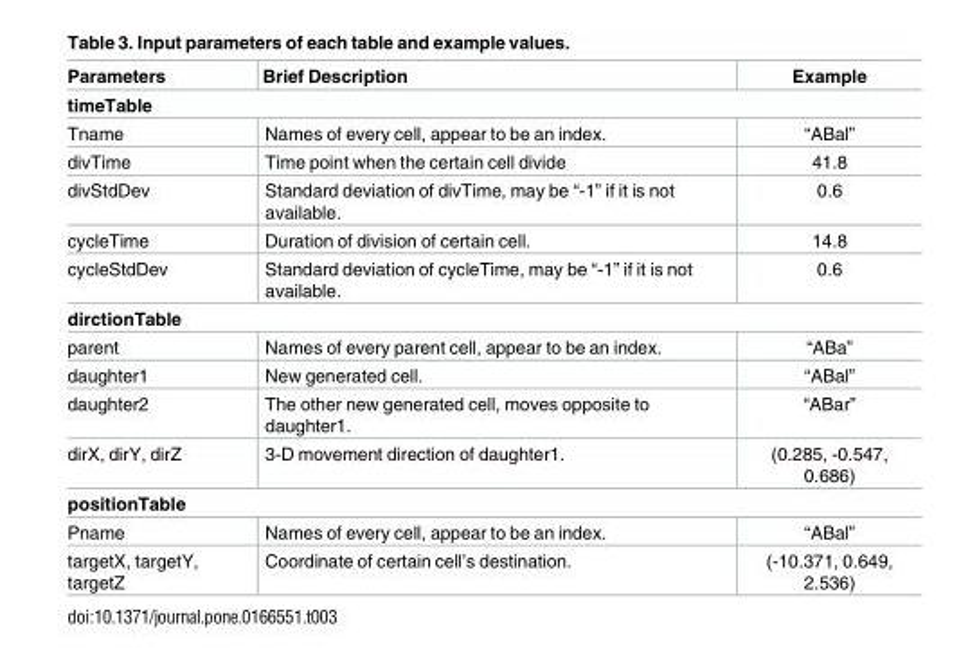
<table><thead><tr><td>Parameters</td><td>Brief Description</td><td>Example</td></tr></thead><tbody><tr><td colspan="3">timeTable</td></tr><tr><td>Tname</td><td>Names of every cell, appear to be an index.</td><td>“ABal”</td></tr><tr><td>divTime</td><td>Time point when the certain cell divide</td><td>41.8</td></tr><tr><td>divStdDev</td><td>Standard deviation of divTime, may be “-1” if it is not available.</td><td>0.6</td></tr><tr><td>cycleTime</td><td>Duration of division of certain cell.</td><td>14.8</td></tr><tr><td>cycleStdDev</td><td>Standard deviation of cycleTime, may be “-1” if it is not available.</td><td>0.6</td></tr><tr><td colspan="3">dirctionTable</td></tr><tr><td>parent</td><td>Names of every parent cell, appear to be an index.</td><td>“ABa”</td></tr><tr><td>daughter1</td><td>New generated cell.</td><td>“ABal”</td></tr><tr><td>daughter2</td><td>The other new generated cell, moves opposite to daughter1.</td><td>“ABar”</td></tr><tr><td>dirX, dirY, dirZ</td><td>3-D movement direction of daughter1.</td><td>(0.285, -0.547, 0.686)</td></tr><tr><td colspan="3">positionTable</td></tr><tr><td>Pname</td><td>Names of every cell, appear to be an index.</td><td>“ABal”</td></tr><tr><td>targetX, targetY, targetZ</td><td>Coordinate of certain cell’s destination.</td><td>(-10.371, 0.649, 2.536)</td></tr></tbody></table>